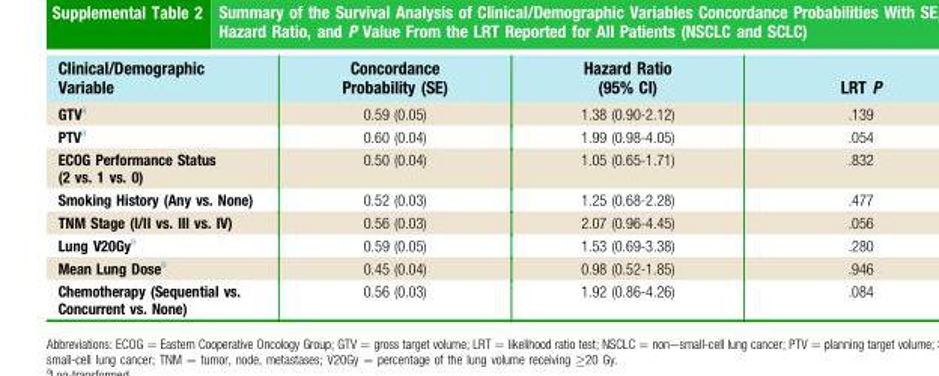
<table><thead><tr><td>Clinical/Demographic Variable</td><td>Concordance Probability (SE)</td><td>Hazard Ratio (95% CI)</td><td>LRT P</td></tr></thead><tbody><tr><td>GTVa</td><td>0.59 (0.05)</td><td>1.38 (0.90-2.12)</td><td>.139</td></tr><tr><td>PTVa</td><td>0.60 (0.04)</td><td>1.99 (0.98-4.05)</td><td>.054</td></tr><tr><td>ECOG Performance Status (2 vs. 1 vs. 0)</td><td>0.50 (0.04)</td><td>1.05 (0.65-1.71)</td><td>.832</td></tr><tr><td>Smoking History (Any vs. None)</td><td>0.52 (0.03)</td><td>1.25 (0.68-2.28)</td><td>.477</td></tr><tr><td>TNM Stage (I/II vs. III vs. IV)</td><td>0.56 (0.03)</td><td>2.07 (0.96-4.45)</td><td>.056</td></tr><tr><td>Lung V20Gya</td><td>0.59 (0.05)</td><td>1.53 (0.69-3.38)</td><td>.280</td></tr><tr><td>Mean Lung Dosea</td><td>0.45 (0.04)</td><td>0.98 (0.52-1.85)</td><td>.946</td></tr><tr><td>Chemotherapy (Sequential vs. Concurrent vs. None)</td><td>0.56 (0.03)</td><td>1.92 (0.86-4.26)</td><td>.084</td></tr></tbody></table>